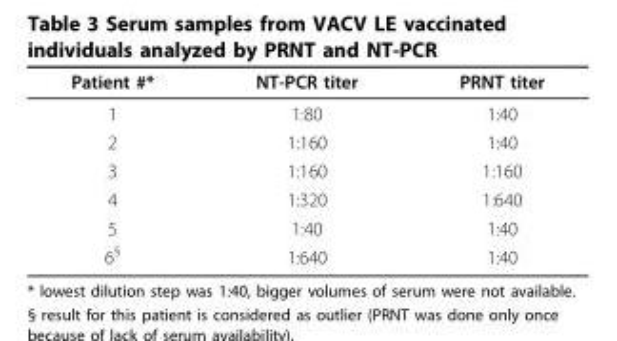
<table><thead><tr><td>Patient #*</td><td>NT-PCR titer</td><td>PRNT titer</td></tr></thead><tbody><tr><td>1</td><td>1:80</td><td>1:40</td></tr><tr><td>2</td><td>1:160</td><td>1:40</td></tr><tr><td>3</td><td>1:160</td><td>1:160</td></tr><tr><td>4</td><td>1:320</td><td>1:640</td></tr><tr><td>5</td><td>1:40</td><td>1:40</td></tr><tr><td>6<sup>§</sup></td><td>1:640</td><td>1:40</td></tr></tbody></table>